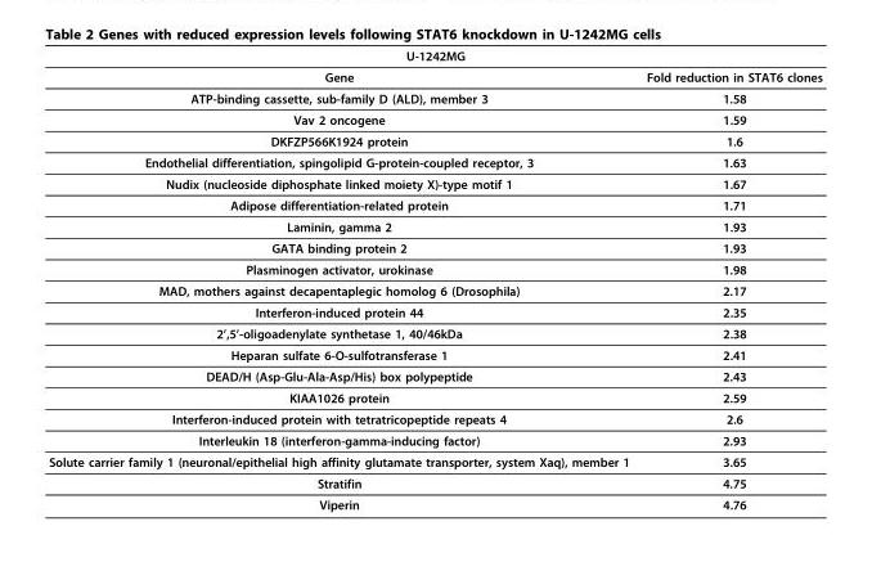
<table><thead><tr><td colspan="2">U-1242MG</td></tr><tr><td>Gene</td><td>Fold reduction in STAT6 clones</td></tr></thead><tbody><tr><td>ATP-binding cassette, sub-family D (ALD), member 3</td><td>1.58</td></tr><tr><td>Vav 2 oncogene</td><td>1.59</td></tr><tr><td>DKFZP566K1924 protein</td><td>1.6</td></tr><tr><td>Endothelial differentiation, spingolipid G-protein-coupled receptor, 3</td><td>1.63</td></tr><tr><td>Nudix (nucleoside diphosphate linked moiety X)-type motif 1</td><td>1.67</td></tr><tr><td>Adipose differentiation-related protein</td><td>1.71</td></tr><tr><td>Laminin, gamma 2</td><td>1.93</td></tr><tr><td>GATA binding protein 2</td><td>1.93</td></tr><tr><td>Plasminogen activator, urokinase</td><td>1.98</td></tr><tr><td>MAD, mothers against decapentaplegic homolog 6 (Drosophila)</td><td>2.17</td></tr><tr><td>Interferon-induced protein 44</td><td>2.35</td></tr><tr><td>2’,5’-oligoadenylate synthetase 1, 40/46kDa</td><td>2.38</td></tr><tr><td>Heparan sulfate 6-O-sulfotransferase 1</td><td>2.41</td></tr><tr><td>DEAD/H (Asp-Glu-Ala-Asp/His) box polypeptide</td><td>2.43</td></tr><tr><td>KIAA1026 protein</td><td>2.59</td></tr><tr><td>Interferon-induced protein with tetratricopeptide repeats 4</td><td>2.6</td></tr><tr><td>Interleukin 18 (interferon-gamma-inducing factor)</td><td>2.93</td></tr><tr><td>Solute carrier family 1 (neuronal/epithelial high affinity glutamate transporter, system Xaq), member 1</td><td>3.65</td></tr><tr><td>Stratifin</td><td>4.75</td></tr><tr><td>Viperin</td><td>4.76</td></tr></tbody></table>